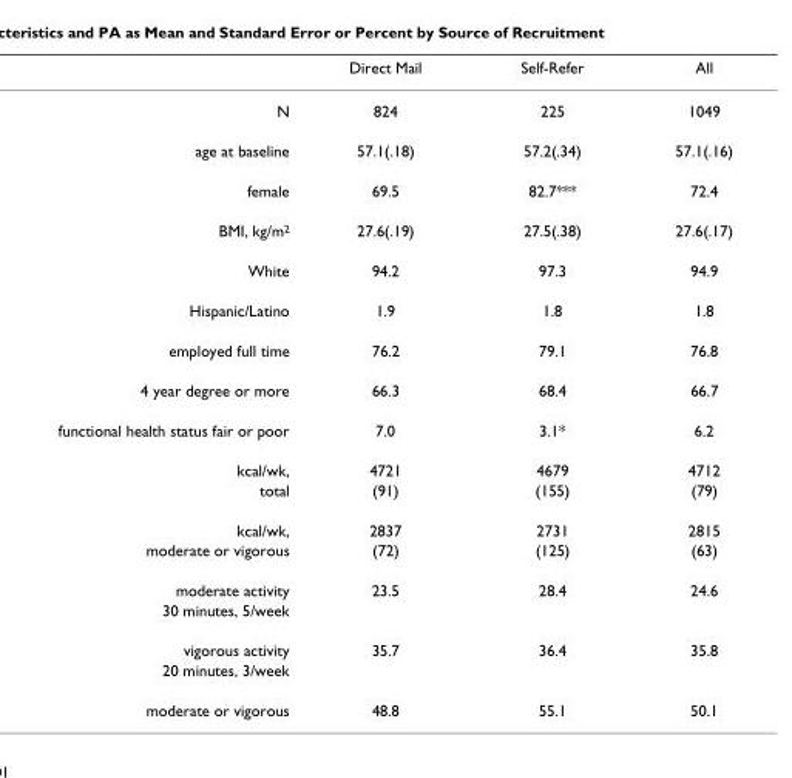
<table><thead><tr><td></td><td>Direct Mail</td><td>Self-Refer</td><td>All</td></tr></thead><tbody><tr><td>N</td><td>824</td><td>225</td><td>1049</td></tr><tr><td>age at baseline</td><td>57.1(.18)</td><td>57.2(.34)</td><td>57.1(.16)</td></tr><tr><td>female</td><td>69.5</td><td>82.7***</td><td>72.4</td></tr><tr><td>BMI, kg/m<sup>2</sup></td><td>27.6(.19)</td><td>27.5(.38)</td><td>27.6(.17)</td></tr><tr><td>White</td><td>94.2</td><td>97.3</td><td>94.9</td></tr><tr><td>Hispanic/Latino</td><td>1.9</td><td>1.8</td><td>1.8</td></tr><tr><td>employed full time</td><td>76.2</td><td>79.1</td><td>76.8</td></tr><tr><td>4 year degree or more</td><td>66.3</td><td>68.4</td><td>66.7</td></tr><tr><td>functional health status fair or poor</td><td>7.0</td><td>3.1*</td><td>6.2</td></tr><tr><td>kcal/wk,</td><td>4721</td><td>4679</td><td>4712</td></tr><tr><td>total</td><td>(91)</td><td>(155)</td><td>(79)</td></tr><tr><td>kcal/wk,</td><td>2837</td><td>2731</td><td>2815</td></tr><tr><td>moderate or vigorous</td><td>(72)</td><td>(125)</td><td>(63)</td></tr><tr><td>moderate activity</td><td>23.5</td><td>28.4</td><td>24.6</td></tr><tr><td colspan="4">30 minutes, 5/week</td></tr><tr><td>vigorous activity</td><td>35.7</td><td>36.4</td><td>35.8</td></tr><tr><td colspan="4">20 minutes, 3/week</td></tr><tr><td>moderate or vigorous</td><td>48.8</td><td>55.1</td><td>50.1</td></tr></tbody></table>